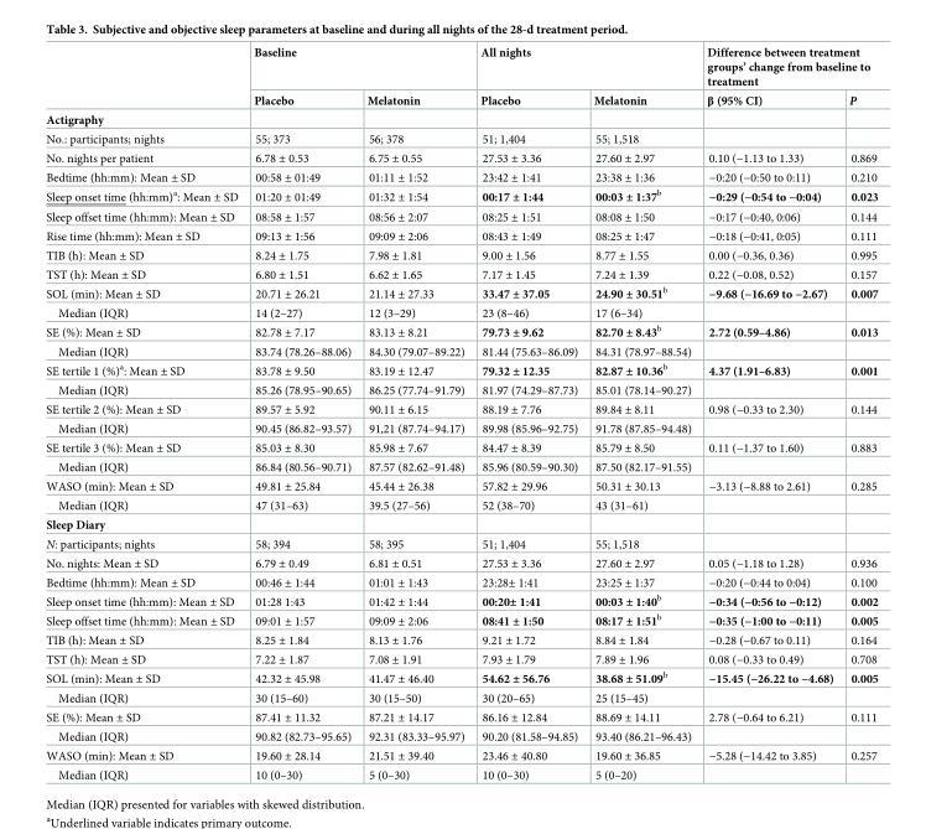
<table><thead><tr><td rowspan="2"></td><td colspan="2">Baseline</td><td colspan="2">All nights</td><td colspan="2">Difference between treatment groups’ change from baseline to treatment</td></tr><tr><td>Placebo</td><td>Melatonin</td><td>Placebo</td><td>Melatonin</td><td>β (95% CI)</td><td>P</td></tr></thead><tbody><tr><td colspan="7">Actigraphy</td></tr><tr><td>No.: participants; nights</td><td>55; 373</td><td>56; 378</td><td>51; 1,404</td><td>55; 1,518</td><td></td><td></td></tr><tr><td>No. nights per patient</td><td>6.78 ± 0.53</td><td>6.75 ± 0.55</td><td>27.53 ± 3.36</td><td>27.60 ± 2.97</td><td>0.10 (−1.13 to 1.33)</td><td>0.869</td></tr><tr><td>Bedtime (hh:mm): Mean ± SD</td><td>00:58 ± 01:49</td><td>01:11 ± 1:52</td><td>23:42 ± 1:41</td><td>23:38 ± 1:36</td><td>−0:20 (−0:50 to 0:11)</td><td>0.210</td></tr><tr><td>Sleep onset time (hh:mm)<sup>a</sup>: Mean ± SD</td><td>01:20 ± 01:49</td><td>01:32 ± 1:54</td><td>00:17 ± 1:44</td><td>00:03 ± 1:37<sup>b</sup></td><td>−0:29 (−0:54 to −0:04)</td><td>0.023</td></tr><tr><td>Sleep offset time (hh:mm): Mean ± SD</td><td>08:58 ± 1:57</td><td>08:56 ± 2:07</td><td>08:25 ± 1:51</td><td>08:08 ± 1:50</td><td>−0:17 (−0:40, 0:06)</td><td>0.144</td></tr><tr><td>Rise time (hh:mm): Mean ± SD</td><td>09:13 ± 1:56</td><td>09:09 ± 2:06</td><td>08:43 ± 1:49</td><td>08:25 ± 1:47</td><td>−0:18 (−0:41, 0:05)</td><td>0.111</td></tr><tr><td>TIB (h): Mean ± SD</td><td>8.24 ± 1.75</td><td>7.98 ± 1.81</td><td>9.00 ± 1.56</td><td>8.77 ± 1.55</td><td>0.00 (−0.36, 0.36)</td><td>0.995</td></tr><tr><td>TST (h): Mean ± SD</td><td>6.80 ± 1.51</td><td>6.62 ± 1.65</td><td>7.17 ± 1.45</td><td>7.24 ± 1.39</td><td>0.22 (−0.08, 0.52)</td><td>0.157</td></tr><tr><td>SOL (min): Mean ± SD</td><td>20.71 ± 26.21</td><td>21.14 ± 27.33</td><td>33.47 ± 37.05</td><td>24.90 ± 30.51<sup>b</sup></td><td>−9.68 (−16.69 to −2.67)</td><td>0.007</td></tr><tr><td>Median (IQR)</td><td>14 (2–27)</td><td>12 (3–29)</td><td>23 (8–46)</td><td>17 (6–34)</td><td></td><td></td></tr><tr><td>SE (%): Mean ± SD</td><td>82.78 ± 7.17</td><td>83.13 ± 8.21</td><td>79.73 ± 9.62</td><td>82.70 ± 8.43<sup>b</sup></td><td>2.72 (0.59–4.86)</td><td>0.013</td></tr><tr><td>Median (IQR)</td><td>83.74 (78.26–88.06)</td><td>84.30 (79.07–89.22)</td><td>81.44 (75.63–86.09)</td><td>84.31 (78.97–88.54)</td><td></td><td></td></tr><tr><td>SE tertile 1 (%)<sup>a</sup>: Mean ± SD</td><td>83.78 ± 9.50</td><td>83.19 ± 12.47</td><td>79.32 ± 12.35</td><td>82.87 ± 10.36<sup>b</sup></td><td>4.37 (1.91–6.83)</td><td>0.001</td></tr><tr><td>Median (IQR)</td><td>85.26 (78.95–90.65)</td><td>86.25 (77.74–91.79)</td><td>81.97 (74.29–87.73)</td><td>85.01 (78.14–90.27)</td><td></td><td></td></tr><tr><td>SE tertile 2 (%): Mean ± SD</td><td>89.57 ± 5.92</td><td>90.11 ± 6.15</td><td>88.19 ± 7.76</td><td>89.84 ± 8.11</td><td>0.98 (−0.33 to 2.30)</td><td>0.144</td></tr><tr><td>Median (IQR)</td><td>90.45 (86.82–93.57)</td><td>91,21 (87.74–94.17)</td><td>89.98 (85.96–92.75)</td><td>91.78 (87.85–94.48)</td><td></td><td></td></tr><tr><td>SE tertile 3 (%): Mean ± SD</td><td>85.03 ± 8.30</td><td>85.98 ± 7.67</td><td>84.47 ± 8.39</td><td>85.79 ± 8.50</td><td>0.11 (−1.37 to 1.60)</td><td>0.883</td></tr><tr><td>Median (IQR)</td><td>86.84 (80.56–90.71)</td><td>87.57 (82.62–91.48)</td><td>85.96 (80.59–90.30)</td><td>87.50 (82.17–91.55)</td><td></td><td></td></tr><tr><td>WASO (min): Mean ± SD</td><td>49.81 ± 25.84</td><td>45.44 ± 26.38</td><td>57.82 ± 29.96</td><td>50.31 ± 30.13</td><td>−3.13 (−8.88 to 2.61)</td><td>0.285</td></tr><tr><td>Median (IQR)</td><td>47 (31–63)</td><td>39.5 (27–56)</td><td>52 (38–70)</td><td>43 (31–61)</td><td></td><td></td></tr><tr><td colspan="7">Sleep Diary</td></tr><tr><td>N: participants; nights</td><td>58; 394</td><td>58; 395</td><td>51; 1,404</td><td>55; 1,518</td><td></td><td></td></tr><tr><td>No. nights: Mean ± SD</td><td>6.79 ± 0.49</td><td>6.81 ± 0.51</td><td>27.53 ± 3.36</td><td>27.60 ± 2.97</td><td>0.05 (−1.18 to 1.28)</td><td>0.936</td></tr><tr><td>Bedtime (hh:mm): Mean ± SD</td><td>00:46 ± 1:44</td><td>01:01 ± 1:43</td><td>23:28± 1:41</td><td>23:25 ± 1:37</td><td>−0:20 (−0:44 to 0:04)</td><td>0.100</td></tr><tr><td>Sleep onset time (hh:mm): Mean ± SD</td><td>01:28 1:43</td><td>01:42 ± 1:44</td><td>00:20± 1:41</td><td>00:03 ± 1:40<sup>b</sup></td><td>−0:34 (−0:56 to −0:12)</td><td>0.002</td></tr><tr><td>Sleep offset time (hh:mm): Mean ± SD</td><td>09:01 ± 1:57</td><td>09:09 ± 2:06</td><td>08:41 ± 1:50</td><td>08:17 ± 1:51<sup>b</sup></td><td>−0:35 (−1:00 to −0:11)</td><td>0.005</td></tr><tr><td>ΤIΒ (h): Mean ± SD</td><td>8.25 ± 1.84</td><td>8.13 ± 1.76</td><td>9.21 ± 1.72</td><td>8.84 ± 1.84</td><td>−0.28 (−0.67 to 0.11)</td><td>0.164</td></tr><tr><td>ΤSΤ (h): Mean ± SD</td><td>7.22 ± 1.87</td><td>7.08 ± 1.91</td><td>7.93 ± 1.79</td><td>7.89 ± 1.96</td><td>0.08 (−0.33 to 0.49)</td><td>0.708</td></tr><tr><td>SOL (min): Mean ± SD</td><td>42.32 ± 45.98</td><td>41.47 ± 46.40</td><td>54.62 ± 56.76</td><td>38.68 ± 51.09<sup>b</sup></td><td>−15.45 (−26.22 to −4.68)</td><td>0.005</td></tr><tr><td>Median (IQR)</td><td>30 (15–60)</td><td>30 (15–50)</td><td>30 (20–65)</td><td>25 (15–45)</td><td></td><td></td></tr><tr><td>SE (%): Mean ± SD</td><td>87.41 ± 11.32</td><td>87.21 ± 14.17</td><td>86.16 ± 12.84</td><td>88.69 ± 14.11</td><td>2.78 (−0.64 to 6.21)</td><td>0.111</td></tr><tr><td>Median (IQR)</td><td>90.82 (82.73–95.65)</td><td>92.31 (83.33–95.97)</td><td>90.20 (81.58–94.85)</td><td>93.40 (86.21–96.43)</td><td></td><td></td></tr><tr><td>WASO (min): Mean ± SD</td><td>19.60 ± 28.14</td><td>21.51 ± 39.40</td><td>23.46 ± 40.80</td><td>19.60 ± 36.85</td><td>−5.28 (−14.42 to 3.85)</td><td>0.257</td></tr><tr><td>Median (IQR)</td><td>10 (0–30)</td><td>5 (0–30)</td><td>10 (0–30)</td><td>5 (0–20)</td><td></td><td></td></tr></tbody></table>